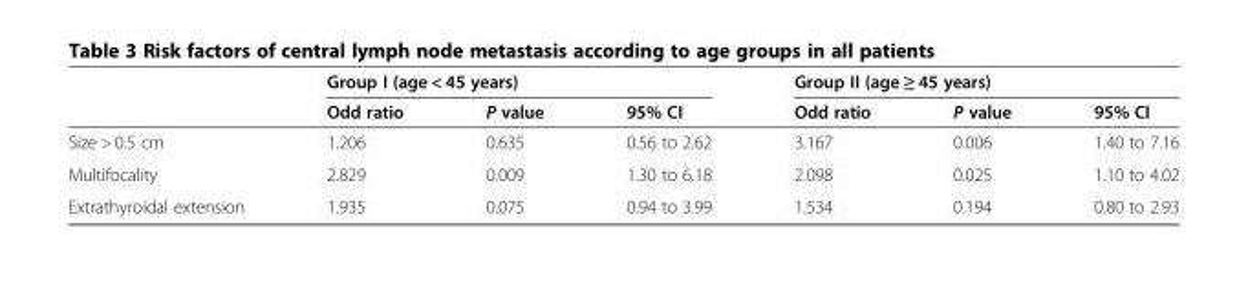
<table><thead><tr><td rowspan="2"></td><td colspan="3">Group I (age &lt; 45 years)</td><td colspan="3">Group II (age ≥ 45 years)</td></tr><tr><td>Odd ratio</td><td>P value</td><td>95% CI</td><td>Odd ratio</td><td>P value</td><td>95% CI</td></tr></thead><tbody><tr><td>Size &gt; 0.5 cm</td><td>1.206</td><td>0.635</td><td>0.56 to 2.62</td><td>3.167</td><td>0.006</td><td>1.40 to 7.16</td></tr><tr><td>Multifocality</td><td>2.829</td><td>0.009</td><td>1.30 to 6.18</td><td>2.098</td><td>0.025</td><td>1.10 to 4.02</td></tr><tr><td>Extrathyroidal extension</td><td>1.935</td><td>0.075</td><td>0.94 to 3.99</td><td>1.534</td><td>0.194</td><td>0.80 to 2.93</td></tr></tbody></table>